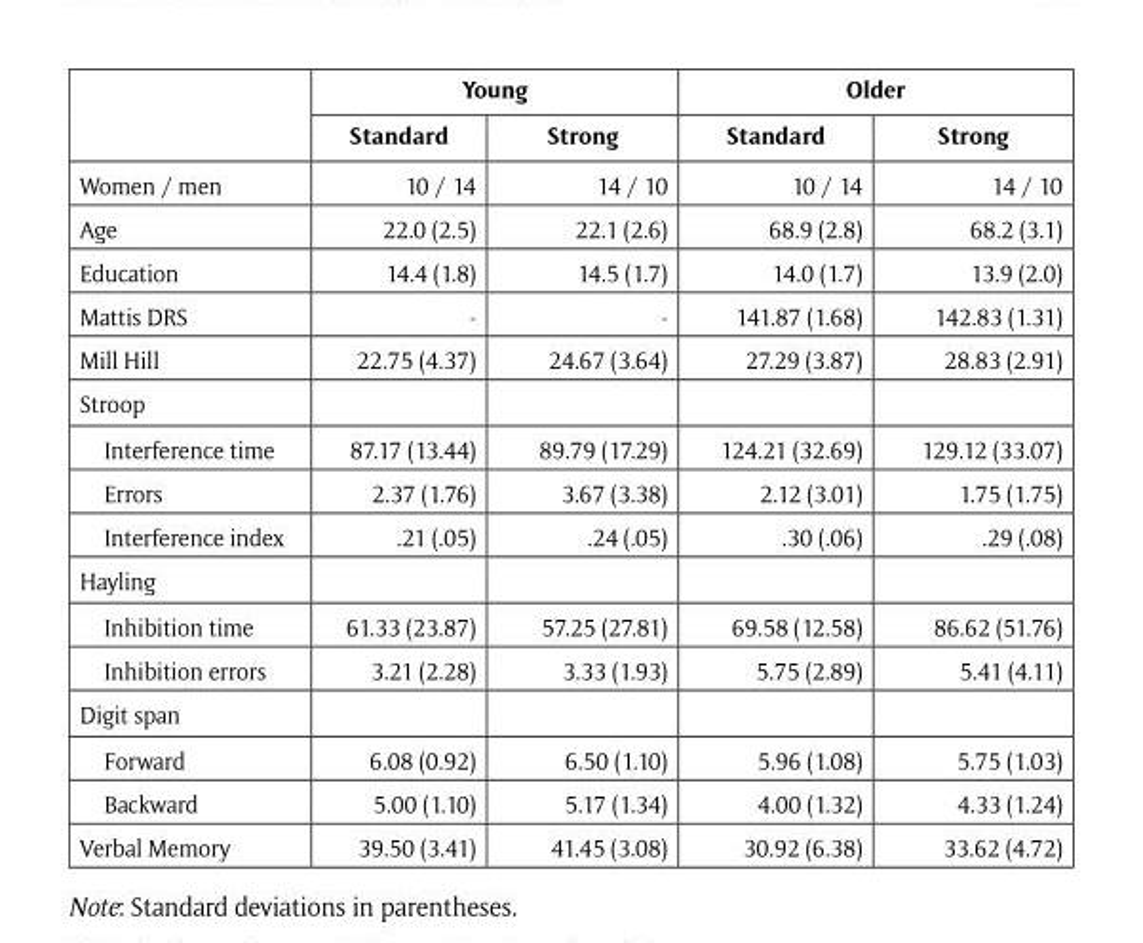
<table><thead><tr><td rowspan="2"></td><td colspan="2">Young</td><td colspan="2">Older</td></tr><tr><td>Standard</td><td>Strong</td><td>Standard</td><td>Strong</td></tr></thead><tbody><tr><td>Women / men</td><td>10 / 14</td><td>14 / 10</td><td>10 / 14</td><td>14 / 10</td></tr><tr><td>Age</td><td>22.0 (2.5)</td><td>22.1 (2.6)</td><td>68.9 (2.8)</td><td>68.2 (3.1)</td></tr><tr><td>Education</td><td>14.4 (1.8)</td><td>14.5 (1.7)</td><td>14.0 (1.7)</td><td>13.9 (2.0)</td></tr><tr><td>Mattis DRS</td><td>-</td><td>-</td><td>141.87 (1.68)</td><td>142.83 (1.31)</td></tr><tr><td>Mill Hill</td><td>22.75 (4.37)</td><td>24.67 (3.64)</td><td>27.29 (3.87)</td><td>28.83 (2.91)</td></tr><tr><td colspan="5">Stroop</td></tr><tr><td>Interference time</td><td>87.17 (13.44)</td><td>89.79 (17.29)</td><td>124.21 (32.69)</td><td>129.12 (33.07)</td></tr><tr><td>Errors</td><td>2.37 (1.76)</td><td>3.67 (3.38)</td><td>2.12 (3.01)</td><td>1.75 (1.75)</td></tr><tr><td>Interference index</td><td>.21 (.05)</td><td>.24 (.05)</td><td>.30 (.06)</td><td>.29 (.08)</td></tr><tr><td colspan="5">Hayling</td></tr><tr><td>Inhibition time</td><td>61.33 (23.87)</td><td>57.25 (27.81)</td><td>69.58 (12.58)</td><td>86.62 (51.76)</td></tr><tr><td>Inhibition errors</td><td>3.21 (2.28)</td><td>3.33 (1.93)</td><td>5.75 (2.89)</td><td>5.41 (4.11)</td></tr><tr><td colspan="5">Digit span</td></tr><tr><td>Forward</td><td>6.08 (0.92)</td><td>6.50 (1.10)</td><td>5.96 (1.08)</td><td>5.75 (1.03)</td></tr><tr><td>Backward</td><td>5.00 (1.10)</td><td>5.17 (1.34)</td><td>4.00 (1.32)</td><td>4.33 (1.24)</td></tr><tr><td>Verbal Memory</td><td>39.50 (3.41)</td><td>41.45 (3.08)</td><td>30.92 (6.38)</td><td>33.62 (4.72)</td></tr></tbody></table>